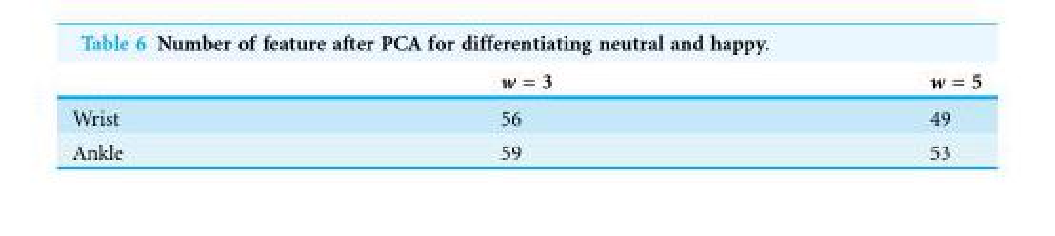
<table><thead><tr><td></td><td>w = 3</td><td>w = 5</td></tr></thead><tbody><tr><td>Wrist</td><td>56</td><td>49</td></tr><tr><td>Ankle</td><td>59</td><td>53</td></tr></tbody></table>